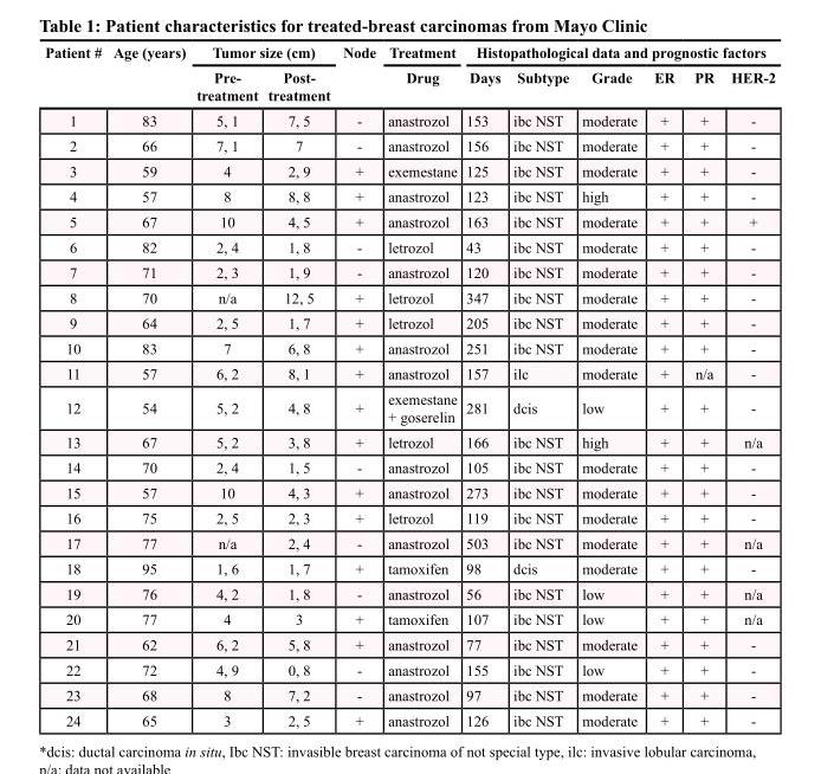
<table><thead><tr><td rowspan="2">Patient #</td><td rowspan="2">Age (years)</td><td colspan="2">Tumor size (cm)</td><td rowspan="2">Node</td><td rowspan="2">Treatment Drug</td><td colspan="6">Histopathological data and prognostic factors</td></tr><tr><td>Pre- treatment</td><td>Post- treatment</td><td>Days</td><td>Subtype</td><td>Grade</td><td>ER</td><td>PR</td><td>HER-2</td></tr></thead><tbody><tr><td>1</td><td>83</td><td>5, 1</td><td>7, 5</td><td>-</td><td>anastrozol</td><td>153</td><td>ibc NST</td><td>moderate</td><td>+</td><td>+</td><td>-</td></tr><tr><td>2</td><td>66</td><td>7, 1</td><td>7</td><td>-</td><td>anastrozol</td><td>156</td><td>ibc NST</td><td>moderate</td><td>+</td><td>+</td><td>-</td></tr><tr><td>3</td><td>59</td><td>4</td><td>2, 9</td><td>+</td><td>exemestane</td><td>125</td><td>ibc NST</td><td>moderate</td><td>+</td><td>+</td><td>-</td></tr><tr><td>4</td><td>57</td><td>8</td><td>8, 8</td><td>+</td><td>anastrozol</td><td>123</td><td>ibc NST</td><td>high</td><td>+</td><td>+</td><td>-</td></tr><tr><td>5</td><td>67</td><td>10</td><td>4, 5</td><td>+</td><td>anastrozol</td><td>163</td><td>ibc NST</td><td>moderate</td><td>+</td><td>+</td><td>+</td></tr><tr><td>6</td><td>82</td><td>2, 4</td><td>1, 8</td><td>-</td><td>letrozol</td><td>43</td><td>ibc NST</td><td>moderate</td><td>+</td><td>+</td><td>-</td></tr><tr><td>7</td><td>71</td><td>2, 3</td><td>1, 9</td><td>-</td><td>anastrozol</td><td>120</td><td>ibc NST</td><td>moderate</td><td>+</td><td>+</td><td>-</td></tr><tr><td>8</td><td>70</td><td>n/a</td><td>12, 5</td><td>+</td><td>letrozol</td><td>347</td><td>ibc NST</td><td>moderate</td><td>+</td><td>+</td><td>-</td></tr><tr><td>9</td><td>64</td><td>2, 5</td><td>1, 7</td><td>+</td><td>letrozol</td><td>205</td><td>ibc NST</td><td>moderate</td><td>+</td><td>+</td><td>-</td></tr><tr><td>10</td><td>83</td><td>7</td><td>6, 8</td><td>+</td><td>anastrozol</td><td>251</td><td>ibc NST</td><td>moderate</td><td>+</td><td>+</td><td>-</td></tr><tr><td>11</td><td>57</td><td>6, 2</td><td>8, 1</td><td>+</td><td>anastrozol</td><td>157</td><td>ilc</td><td>moderate</td><td>+</td><td>n/a</td><td>-</td></tr><tr><td>12</td><td>54</td><td>5, 2</td><td>4, 8</td><td>+</td><td>exemestane + goserelin</td><td>281</td><td>dcis</td><td>low</td><td>+</td><td>+</td><td>-</td></tr><tr><td>13</td><td>67</td><td>5, 2</td><td>3, 8</td><td>+</td><td>letrozol</td><td>166</td><td>ibc NST</td><td>high</td><td>+</td><td>+</td><td>n/a</td></tr><tr><td>14</td><td>70</td><td>2, 4</td><td>1, 5</td><td>-</td><td>anastrozol</td><td>105</td><td>ibc NST</td><td>moderate</td><td>+</td><td>+</td><td>-</td></tr><tr><td>15</td><td>57</td><td>10</td><td>4, 3</td><td>+</td><td>anastrozol</td><td>273</td><td>ibc NST</td><td>moderate</td><td>+</td><td>+</td><td>-</td></tr><tr><td>16</td><td>75</td><td>2, 5</td><td>2, 3</td><td>+</td><td>letrozol</td><td>119</td><td>ibc NST</td><td>moderate</td><td>+</td><td>+</td><td>-</td></tr><tr><td>17</td><td>77</td><td>n/a</td><td>2, 4</td><td>-</td><td>anastrozol</td><td>503</td><td>ibc NST</td><td>moderate</td><td>+</td><td>+</td><td>n/a</td></tr><tr><td>18</td><td>95</td><td>1, 6</td><td>1, 7</td><td>+</td><td>tamoxifen</td><td>98</td><td>dcis</td><td>moderate</td><td>+</td><td>+</td><td>-</td></tr><tr><td>19</td><td>76</td><td>4, 2</td><td>1, 8</td><td>-</td><td>anastrozol</td><td>56</td><td>ibc NST</td><td>low</td><td>+</td><td>+</td><td>n/a</td></tr><tr><td>20</td><td>77</td><td>4</td><td>3</td><td>+</td><td>tamoxifen</td><td>107</td><td>ibc NST</td><td>low</td><td>+</td><td>+</td><td>n/a</td></tr><tr><td>21</td><td>62</td><td>6, 2</td><td>5, 8</td><td>+</td><td>anastrozol</td><td>77</td><td>ibc NST</td><td>moderate</td><td>+</td><td>+</td><td>-</td></tr><tr><td>22</td><td>72</td><td>4, 9</td><td>0, 8</td><td>-</td><td>anastrozol</td><td>155</td><td>ibc NST</td><td>low</td><td>+</td><td>+</td><td>-</td></tr><tr><td>23</td><td>68</td><td>8</td><td>7, 2</td><td>-</td><td>anastrozol</td><td>97</td><td>ibc NST</td><td>moderate</td><td>+</td><td>+</td><td>-</td></tr><tr><td>24</td><td>65</td><td>3</td><td>2, 5</td><td>+</td><td>anastrozol</td><td>126</td><td>ibc NST</td><td>moderate</td><td>+</td><td>+</td><td>-</td></tr></tbody></table>